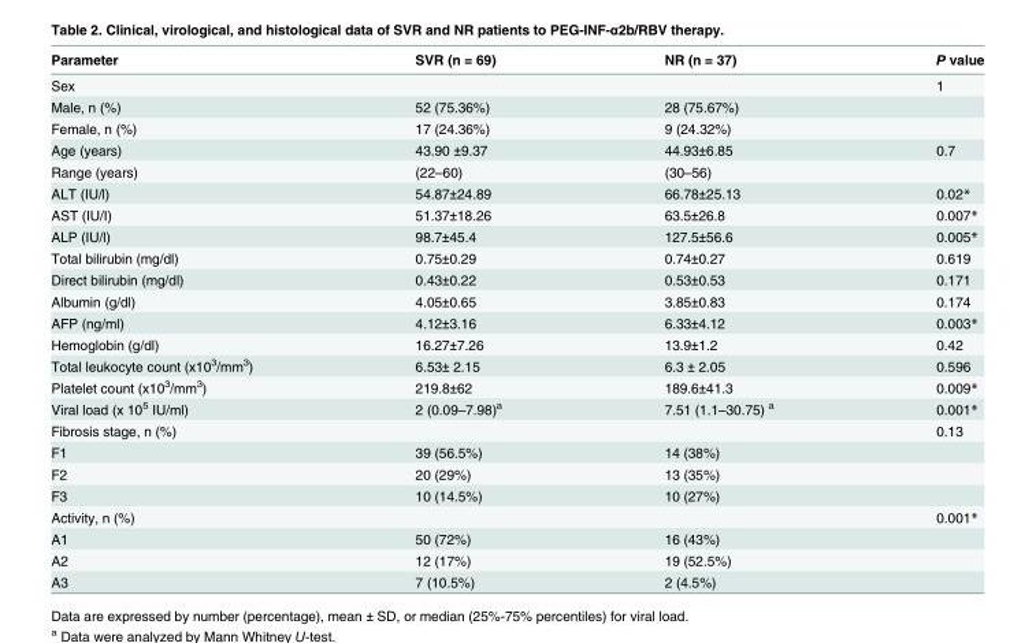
<table><thead><tr><td>Parameter</td><td>SVR (n = 69)</td><td>NR (n = 37)</td><td>P value</td></tr></thead><tbody><tr><td>Sex</td><td></td><td></td><td>1</td></tr><tr><td>Male, n (%)</td><td>52 (75.36%)</td><td>28 (75.67%)</td><td></td></tr><tr><td>Female, n (%)</td><td>17 (24.36%)</td><td>9 (24.32%)</td><td></td></tr><tr><td>Age (years)</td><td>43.90 ±9.37</td><td>44.93±6.85</td><td>0.7</td></tr><tr><td>Range (years)</td><td>(22–60)</td><td>(30–56)</td><td></td></tr><tr><td>ALT (IU/l)</td><td>54.87±24.89</td><td>66.78±25.13</td><td>0.02*</td></tr><tr><td>AST (IU/I)</td><td>51.37±18.26</td><td>63.5±26.8</td><td>0.007*</td></tr><tr><td>ALP (IU/l)</td><td>98.7±45.4</td><td>127.5±56.6</td><td>0.005*</td></tr><tr><td>Total bilirubin (mg/dl)</td><td>0.75±0.29</td><td>0.74±0.27</td><td>0.619</td></tr><tr><td>Direct bilirubin (mg/dl)</td><td>0.43±0.22</td><td>0.53±0.53</td><td>0.171</td></tr><tr><td>Albumin (g/dl)</td><td>4.05±0.65</td><td>3.85±0.83</td><td>0.174</td></tr><tr><td>AFP (ng/ml)</td><td>4.12±3.16</td><td>6.33±4.12</td><td>0.003*</td></tr><tr><td>Hemoglobin (g/dl)</td><td>16.27±7.26</td><td>13.9±1.2</td><td>0.42</td></tr><tr><td>Total leukocyte count (x10<sup>3</sup>/mm<sup>3</sup>)</td><td>6.53± 2.15</td><td>6.3 ± 2.05</td><td>0.596</td></tr><tr><td>Platelet count (x10<sup>3</sup>/mm<sup>3</sup>)</td><td>219.8±62</td><td>189.6±41.3</td><td>0.009*</td></tr><tr><td>Viral load (x 10<sup>5</sup> IU/ml)</td><td>2 (0.09–7.98)<sup>a</sup></td><td>7.51 (1.1–30.75) <sup>a</sup></td><td>0.001*</td></tr><tr><td>Fibrosis stage, n (%)</td><td></td><td></td><td>0.13</td></tr><tr><td>F1</td><td>39 (56.5%)</td><td>14 (38%)</td><td></td></tr><tr><td>F2</td><td>20 (29%)</td><td>13 (35%)</td><td></td></tr><tr><td>F3</td><td>10 (14.5%)</td><td>10 (27%)</td><td></td></tr><tr><td>Activity, n (%)</td><td></td><td></td><td>0.001*</td></tr><tr><td>A1</td><td>50 (72%)</td><td>16 (43%)</td><td></td></tr><tr><td>A2</td><td>12 (17%)</td><td>19 (52.5%)</td><td></td></tr><tr><td>A3</td><td>7 (10.5%)</td><td>2 (4.5%)</td><td></td></tr></tbody></table>